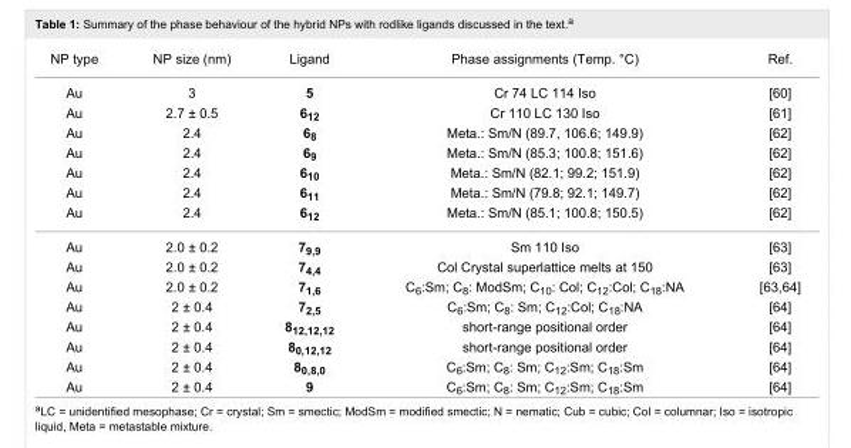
<table><tbody><tr><td>NP type</td><td>NP size (nm)</td><td>Ligand</td><td>Phase assignments (Temp. °C)</td><td>Ref.</td></tr><tr><td>Au</td><td>3</td><td>5</td><td>Cr 74 LC 114 Iso</td><td>[60]</td></tr><tr><td>Au</td><td>2.7 ± 0.5</td><td>6<sub>12</sub></td><td>Cr 110 LC 130 Iso</td><td>[61]</td></tr><tr><td>Au</td><td>2.4</td><td>6<sub>8</sub></td><td>Meta.: Sm/N (89.7, 106.6; 149.9)</td><td>[62]</td></tr><tr><td>Au</td><td>2.4</td><td>6<sub>9</sub></td><td>Meta.: Sm/N (85.3; 100.8; 151.6)</td><td>[62]</td></tr><tr><td>Au</td><td>2.4</td><td>6<sub>10</sub></td><td>Meta.: Sm/N (82.1; 99.2; 151.9)</td><td>[62]</td></tr><tr><td>Au</td><td>2.4</td><td>6<sub>11</sub></td><td>Meta.: Sm/N (79.8; 92.1; 149.7)</td><td>[62]</td></tr><tr><td>Au</td><td>2.4</td><td>6<sub>12</sub></td><td>Meta.: Sm/N (85.1; 100.8; 150.5)</td><td>[62]</td></tr><tr><td>Au</td><td>2.0 ± 0.2</td><td>7<sub>9,9</sub></td><td>Sm 110 Iso</td><td>[63]</td></tr><tr><td>Au</td><td>2.0 ± 0.2</td><td>7<sub>4,4</sub></td><td>Col Crystal superlattice melts at 150</td><td>[63]</td></tr><tr><td>Au</td><td>2.0 ± 0.2</td><td>7<sub>1,6</sub></td><td>C<sub>6</sub>:Sm; C<sub>8</sub>: ModSm; C<sub>10</sub>: Col; C<sub>12</sub>:Col; C<sub>18</sub>:NA</td><td>[63–64]</td></tr><tr><td>Au</td><td>2 ± 0.4</td><td>7<sub>2,5</sub></td><td>C<sub>6</sub>:Sm; C<sub>8</sub>: Sm; C<sub>12</sub>:Col; C<sub>18</sub>:NA</td><td>[64]</td></tr><tr><td>Au</td><td>2 ± 0.4</td><td>8<sub>12,12,12</sub></td><td>short-range positional order</td><td>[64]</td></tr><tr><td>Au</td><td>2 ± 0.4</td><td>8<sub>0,12,12</sub></td><td>short-range positional order</td><td>[64]</td></tr><tr><td>Au</td><td>2 ± 0.4</td><td>8<sub>0,8,0</sub></td><td>C<sub>6</sub>:Sm; C<sub>8</sub>: Sm; C<sub>12</sub>:Sm; C<sub>18</sub>:Sm</td><td>[64]</td></tr><tr><td>Au</td><td>2 ± 0.4</td><td>9</td><td>C<sub>6</sub>:Sm; C<sub>8</sub>: Sm; C<sub>12</sub>:Sm; C<sub>18</sub>:Sm</td><td>[64]</td></tr></tbody></table>